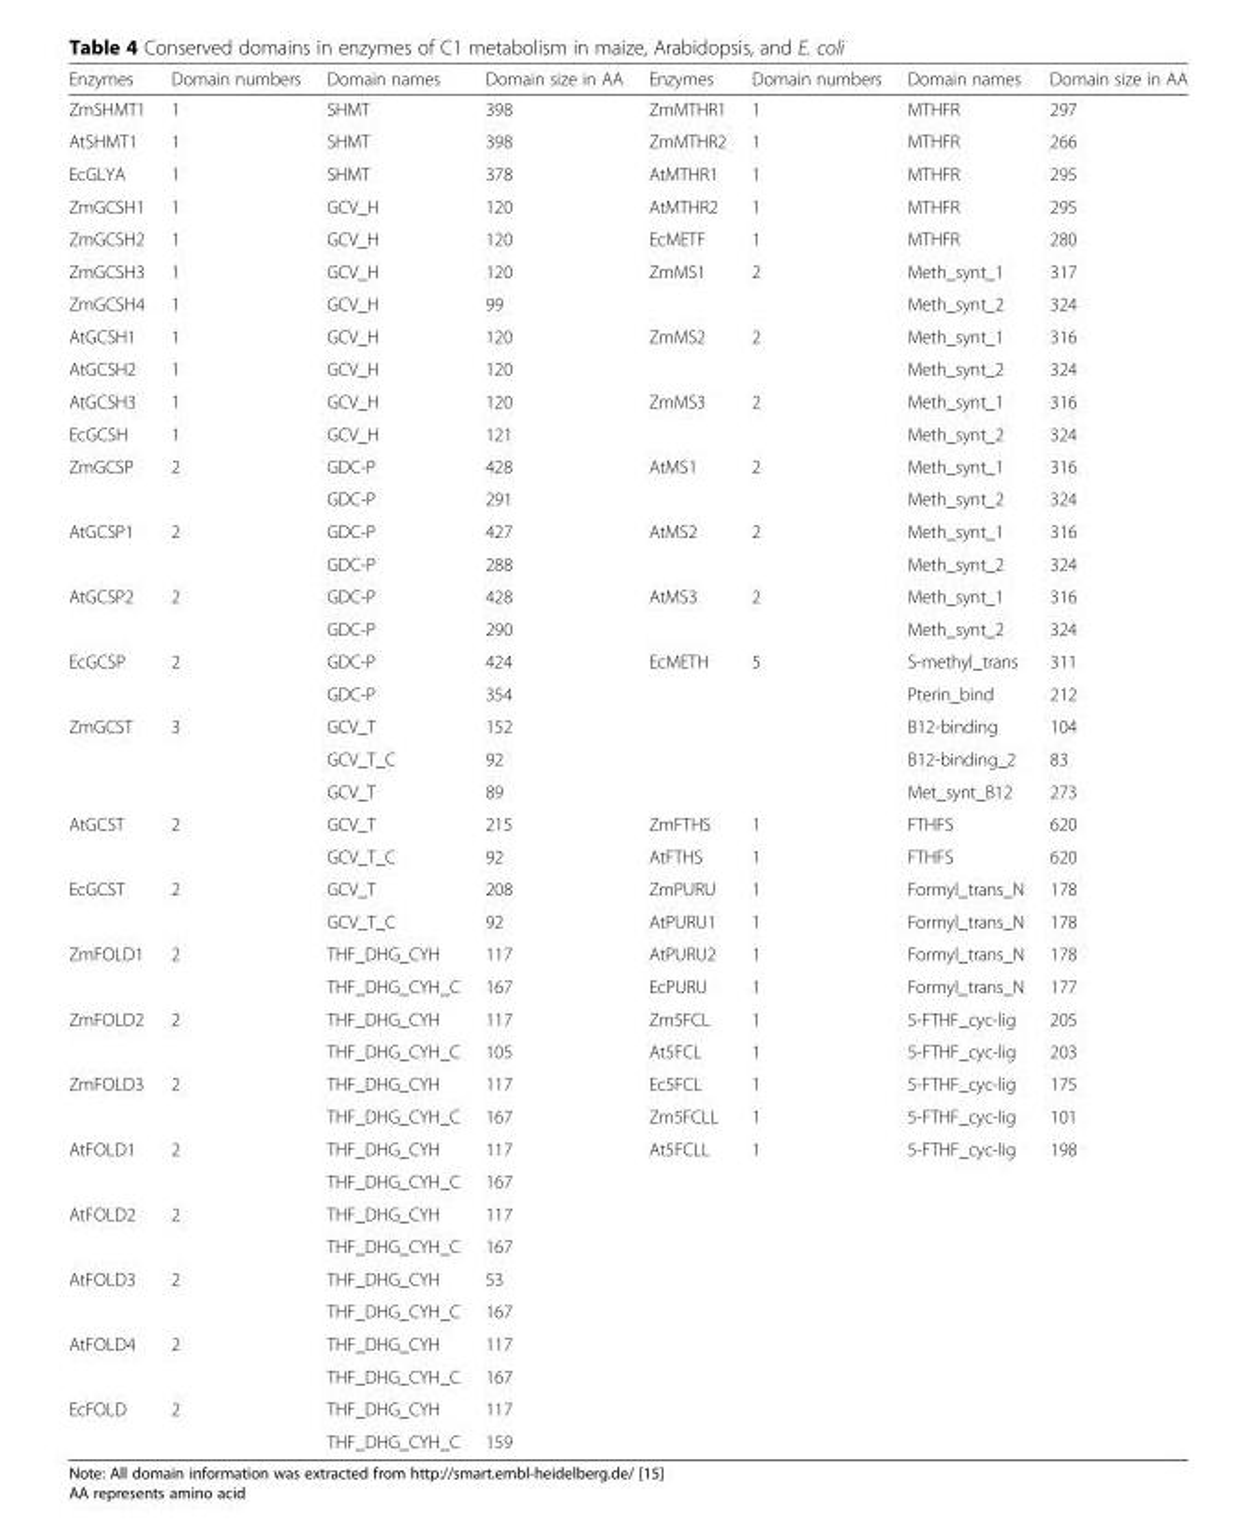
<table><thead><tr><td>Enzymes</td><td>Domain numbers</td><td>Domain names</td><td>Domain size in AA</td><td>Enzymes</td><td>Domain numbers</td><td>Domain names</td><td>Domain size in AA</td></tr></thead><tbody><tr><td>ZmSHMT1</td><td>1</td><td>SHMT</td><td>398</td><td>ZmMTHR1</td><td>1</td><td>MTHFR</td><td>297</td></tr><tr><td>AtSHMT1</td><td>1</td><td>SHMT</td><td>398</td><td>ZmMTHR2</td><td>1</td><td>MTHFR</td><td>266</td></tr><tr><td>EcGLYA</td><td>1</td><td>SHMT</td><td>378</td><td>AtMTHR1</td><td>1</td><td>MTHFR</td><td>295</td></tr><tr><td>ZmGCSH1</td><td>1</td><td>GCV_H</td><td>120</td><td>AtMTHR2</td><td>1</td><td>MTHFR</td><td>295</td></tr><tr><td>ZmGCSH2</td><td>1</td><td>GCV_H</td><td>120</td><td>EcMETF</td><td>1</td><td>MTHFR</td><td>280</td></tr><tr><td>ZmGCSH3</td><td>1</td><td>GCV_H</td><td>120</td><td rowspan="2">ZmMS1</td><td rowspan="2">2</td><td>Meth_synt_1</td><td>317</td></tr><tr><td>ZmGCSH4</td><td>1</td><td>GCV_H</td><td>99</td><td>Meth_synt_2</td><td>324</td></tr><tr><td>AtGCSH1</td><td>1</td><td>GCV_H</td><td>120</td><td rowspan="2">ZmMS2</td><td rowspan="2">2</td><td>Meth_synt_1</td><td>316</td></tr><tr><td>AtGCSH2</td><td>1</td><td>GCV_H</td><td>120</td><td>Meth_synt_2</td><td>324</td></tr><tr><td>AtGCSH3</td><td>1</td><td>GCV_H</td><td>120</td><td rowspan="2">ZmMS3</td><td rowspan="2">2</td><td>Meth_synt_1</td><td>316</td></tr><tr><td>EcGCSH</td><td>1</td><td>GCV_H</td><td>121</td><td>Meth_synt_2</td><td>324</td></tr><tr><td rowspan="2">ZmGCSP</td><td rowspan="2">2</td><td>GDC-P</td><td>428</td><td rowspan="2">AtMS1</td><td rowspan="2">2</td><td>Meth_synt_1</td><td>316</td></tr><tr><td>GDC-P</td><td>291</td><td>Meth_synt_2</td><td>324</td></tr><tr><td rowspan="2">AtGCSP1</td><td rowspan="2">2</td><td>GDC-P</td><td>427</td><td rowspan="2">AtMS2</td><td rowspan="2">2</td><td>Meth_synt_1</td><td>316</td></tr><tr><td>GDC-P</td><td>288</td><td>Meth_synt_2</td><td>324</td></tr><tr><td rowspan="2">AtGCSP2</td><td rowspan="2">2</td><td>GDC-P</td><td>428</td><td rowspan="2">AtMS3</td><td rowspan="2">2</td><td>Meth_synt_1</td><td>316</td></tr><tr><td>GDC-P</td><td>290</td><td>Meth_synt_2</td><td>324</td></tr><tr><td rowspan="2">EcGCSP</td><td rowspan="2">2</td><td>GDC-P</td><td>424</td><td rowspan="5">EcMETH</td><td rowspan="5">5</td><td>S-methyl_trans</td><td>311</td></tr><tr><td>GDC-P</td><td>354</td><td>Pterin_bind</td><td>212</td></tr><tr><td rowspan="3">ZmGCST</td><td rowspan="3">3</td><td>GCV_T</td><td>152</td><td>B12-binding</td><td>104</td></tr><tr><td>GCV_T_C</td><td>92</td><td>B12-binding_2</td><td>83</td></tr><tr><td>GCV_T</td><td>89</td><td>Met_synt_B12</td><td>273</td></tr><tr><td rowspan="2">AtGCST</td><td rowspan="2">2</td><td>GCV_T</td><td>215</td><td>ZmFTHS</td><td>1</td><td>FTHFS</td><td>620</td></tr><tr><td>GCV_T_C</td><td>92</td><td>AtFTHS</td><td>1</td><td>FTHFS</td><td>620</td></tr><tr><td rowspan="2">EcGCST</td><td rowspan="2">2</td><td>GCV_T</td><td>208</td><td>ZmPURU</td><td>1</td><td>Formyl_trans_N</td><td>178</td></tr><tr><td>GCV_T_C</td><td>92</td><td>AtPURU1</td><td>1</td><td>Formyl_trans_N</td><td>178</td></tr><tr><td rowspan="2">ZmFOLD1</td><td rowspan="2">2</td><td>THF_DHG_CYH</td><td>117</td><td>AtPURU2</td><td>1</td><td>Formyl_trans_N</td><td>178</td></tr><tr><td>THF_DHG_CYH_C</td><td>167</td><td>EcPURU</td><td>1</td><td>Formyl_trans_N</td><td>177</td></tr><tr><td rowspan="2">ZmFOLD2</td><td rowspan="2">2</td><td>THF_DHG_CYH</td><td>117</td><td>Zm5FCL</td><td>1</td><td>5-FTHF_cyc-lig</td><td>205</td></tr><tr><td>THF_DHG_CYH_C</td><td>105</td><td>At5FCL</td><td>1</td><td>5-FTHF_cyc-lig</td><td>203</td></tr><tr><td rowspan="2">ZmFOLD3</td><td rowspan="2">2</td><td>THF_DHG_CYH</td><td>117</td><td>Ec5FCL</td><td>1</td><td>5-FTHF_cyc-lig</td><td>175</td></tr><tr><td>THF_DHG_CYH_C</td><td>167</td><td>Zm5FCLL</td><td>1</td><td>5-FTHF_cyc-lig</td><td>101</td></tr><tr><td rowspan="2">AtFOLD1</td><td rowspan="2">2</td><td>THF_DHG_CYH</td><td>117</td><td>At5FCLL</td><td>1</td><td>5-FTHF_cyc-lig</td><td>198</td></tr><tr><td>THF_DHG_CYH_C</td><td>167</td><td></td><td></td><td></td><td></td></tr><tr><td rowspan="2">AtFOLD2</td><td rowspan="2">2</td><td>THF_DHG_CYH</td><td>117</td><td></td><td></td><td></td><td></td></tr><tr><td>THF_DHG_CYH_C</td><td>167</td><td></td><td></td><td></td><td></td></tr><tr><td rowspan="2">AtFOLD3</td><td rowspan="2">2</td><td>THF_DHG_CYH</td><td>53</td><td></td><td></td><td></td><td></td></tr><tr><td>THF_DHG_CYH_C</td><td>167</td><td></td><td></td><td></td><td></td></tr><tr><td rowspan="2">AtFOLD4</td><td rowspan="2">2</td><td>THF_DHG_CYH</td><td>117</td><td></td><td></td><td></td><td></td></tr><tr><td>THF_DHG_CYH_C</td><td>167</td><td></td><td></td><td></td><td></td></tr><tr><td rowspan="2">EcFOLD</td><td rowspan="2">2</td><td>THF_DHG_CYH</td><td>117</td><td></td><td></td><td></td><td></td></tr><tr><td>THF_DHG_CYH_C</td><td>159</td><td></td><td></td><td></td><td></td></tr></tbody></table>